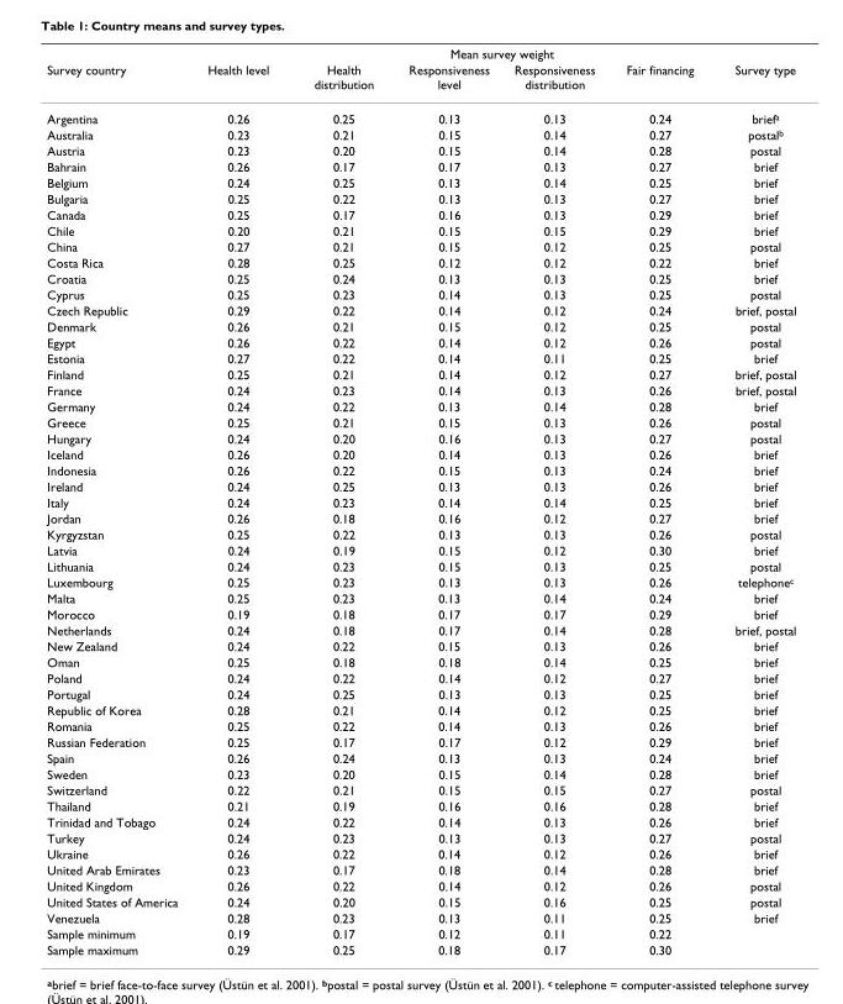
<table><thead><tr><td rowspan="2">Survey country</td><td colspan="6">Mean survey weight</td></tr><tr><td>Health level</td><td>Health distribution</td><td>Responsiveness level</td><td>Responsiveness distribution</td><td>Fair financing</td><td>Survey type</td></tr></thead><tbody><tr><td>Argentina</td><td>0.26</td><td>0.25</td><td>0.13</td><td>0.13</td><td>0.24</td><td>briefa</td></tr><tr><td>Australia</td><td>0.23</td><td>0.21</td><td>0.15</td><td>0.14</td><td>0.27</td><td>postalb</td></tr><tr><td>Austria</td><td>0.23</td><td>0.20</td><td>0.15</td><td>0.14</td><td>0.28</td><td>postal</td></tr><tr><td>Bahrain</td><td>0.26</td><td>0.17</td><td>0.17</td><td>0.13</td><td>0.27</td><td>brief</td></tr><tr><td>Belgium</td><td>0.24</td><td>0.25</td><td>0.13</td><td>0.14</td><td>0.25</td><td>brief</td></tr><tr><td>Bulgaria</td><td>0.25</td><td>0.22</td><td>0.13</td><td>0.13</td><td>0.27</td><td>brief</td></tr><tr><td>Canada</td><td>0.25</td><td>0.17</td><td>0.16</td><td>0.13</td><td>0.29</td><td>brief</td></tr><tr><td>Chile</td><td>0.20</td><td>0.21</td><td>0.15</td><td>0.15</td><td>0.29</td><td>brief</td></tr><tr><td>China</td><td>0.27</td><td>0.21</td><td>0.15</td><td>0.12</td><td>0.25</td><td>postal</td></tr><tr><td>Costa Rica</td><td>0.28</td><td>0.25</td><td>0.12</td><td>0.12</td><td>0.22</td><td>brief</td></tr><tr><td>Croatia</td><td>0.25</td><td>0.24</td><td>0.13</td><td>0.13</td><td>0.25</td><td>brief</td></tr><tr><td>Cyprus</td><td>0.25</td><td>0.23</td><td>0.14</td><td>0.13</td><td>0.25</td><td>postal</td></tr><tr><td>Czech Republic</td><td>0.29</td><td>0.22</td><td>0.14</td><td>0.12</td><td>0.24</td><td>brief, postal</td></tr><tr><td>Denmark</td><td>0.26</td><td>0.21</td><td>0.15</td><td>0.12</td><td>0.25</td><td>postal</td></tr><tr><td>Egypt</td><td>0.26</td><td>0.22</td><td>0.14</td><td>0.12</td><td>0.26</td><td>postal</td></tr><tr><td>Estonia</td><td>0.27</td><td>0.22</td><td>0.14</td><td>0.11</td><td>0.25</td><td>brief</td></tr><tr><td>Finland</td><td>0.25</td><td>0.21</td><td>0.14</td><td>0.12</td><td>0.27</td><td>brief, postal</td></tr><tr><td>France</td><td>0.24</td><td>0.23</td><td>0.14</td><td>0.13</td><td>0.26</td><td>brief, postal</td></tr><tr><td>Germany</td><td>0.24</td><td>0.22</td><td>0.13</td><td>0.14</td><td>0.28</td><td>brief</td></tr><tr><td>Greece</td><td>0.25</td><td>0.21</td><td>0.15</td><td>0.13</td><td>0.26</td><td>postal</td></tr><tr><td>Hungary</td><td>0.24</td><td>0.20</td><td>0.16</td><td>0.13</td><td>0.27</td><td>postal</td></tr><tr><td>Iceland</td><td>0.26</td><td>0.20</td><td>0.14</td><td>0.13</td><td>0.26</td><td>brief</td></tr><tr><td>Indonesia</td><td>0.26</td><td>0.22</td><td>0.15</td><td>0.13</td><td>0.24</td><td>brief</td></tr><tr><td>Ireland</td><td>0.24</td><td>0.25</td><td>0.13</td><td>0.13</td><td>0.26</td><td>brief</td></tr><tr><td>Italy</td><td>0.24</td><td>0.23</td><td>0.14</td><td>0.14</td><td>0.25</td><td>brief</td></tr><tr><td>Jordan</td><td>0.26</td><td>0.18</td><td>0.16</td><td>0.12</td><td>0.27</td><td>brief</td></tr><tr><td>Kyrgyzstan</td><td>0.25</td><td>0.22</td><td>0.13</td><td>0.13</td><td>0.26</td><td>postal</td></tr><tr><td>Latvia</td><td>0.24</td><td>0.19</td><td>0.15</td><td>0.12</td><td>0.30</td><td>brief</td></tr><tr><td>Lithuania</td><td>0.24</td><td>0.23</td><td>0.15</td><td>0.13</td><td>0.25</td><td>postal</td></tr><tr><td>Luxembourg</td><td>0.25</td><td>0.23</td><td>0.13</td><td>0.13</td><td>0.26</td><td>telephonec</td></tr><tr><td>Malta</td><td>0.25</td><td>0.23</td><td>0.13</td><td>0.14</td><td>0.24</td><td>brief</td></tr><tr><td>Morocco</td><td>0.19</td><td>0.18</td><td>0.17</td><td>0.17</td><td>0.29</td><td>brief</td></tr><tr><td>Netherlands</td><td>0.24</td><td>0.18</td><td>0.17</td><td>0.14</td><td>0.28</td><td>brief, postal</td></tr><tr><td>New Zealand</td><td>0.24</td><td>0.22</td><td>0.15</td><td>0.13</td><td>0.26</td><td>brief</td></tr><tr><td>Oman</td><td>0.25</td><td>0.18</td><td>0.18</td><td>0.14</td><td>0.25</td><td>brief</td></tr><tr><td>Poland</td><td>0.24</td><td>0.22</td><td>0.14</td><td>0.12</td><td>0.27</td><td>brief</td></tr><tr><td>Portugal</td><td>0.24</td><td>0.25</td><td>0.13</td><td>0.13</td><td>0.25</td><td>brief</td></tr><tr><td>Republic of Korea</td><td>0.28</td><td>0.21</td><td>0.14</td><td>0.12</td><td>0.25</td><td>brief</td></tr><tr><td>Romania</td><td>0.25</td><td>0.22</td><td>0.14</td><td>0.13</td><td>0.26</td><td>brief</td></tr><tr><td>Russian Federation</td><td>0.25</td><td>0.17</td><td>0.17</td><td>0.12</td><td>0.29</td><td>brief</td></tr><tr><td>Spain</td><td>0.26</td><td>0.24</td><td>0.13</td><td>0.13</td><td>0.24</td><td>brief</td></tr><tr><td>Sweden</td><td>0.23</td><td>0.20</td><td>0.15</td><td>0.14</td><td>0.28</td><td>brief</td></tr><tr><td>Switzerland</td><td>0.22</td><td>0.21</td><td>0.15</td><td>0.15</td><td>0.27</td><td>postal</td></tr><tr><td>Thailand</td><td>0.21</td><td>0.19</td><td>0.16</td><td>0.16</td><td>0.28</td><td>brief</td></tr><tr><td>Trinidad and Tobago</td><td>0.24</td><td>0.22</td><td>0.14</td><td>0.13</td><td>0.26</td><td>brief</td></tr><tr><td>Turkey</td><td>0.24</td><td>0.23</td><td>0.13</td><td>0.13</td><td>0.27</td><td>postal</td></tr><tr><td>Ukraine</td><td>0.26</td><td>0.22</td><td>0.14</td><td>0.12</td><td>0.26</td><td>brief</td></tr><tr><td>United Arab Emirates</td><td>0.23</td><td>0.17</td><td>0.18</td><td>0.14</td><td>0.28</td><td>brief</td></tr><tr><td>United Kingdom</td><td>0.26</td><td>0.22</td><td>0.14</td><td>0.12</td><td>0.26</td><td>postal</td></tr><tr><td>United States of America</td><td>0.24</td><td>0.20</td><td>0.15</td><td>0.16</td><td>0.25</td><td>postal</td></tr><tr><td>Venezuela</td><td>0.28</td><td>0.23</td><td>0.13</td><td>0.11</td><td>0.25</td><td>brief</td></tr><tr><td>Sample minimum</td><td>0.19</td><td>0.17</td><td>0.12</td><td>0.11</td><td>0.22</td><td></td></tr><tr><td>Sample maximum</td><td>0.29</td><td>0.25</td><td>0.18</td><td>0.17</td><td>0.30</td><td></td></tr></tbody></table>